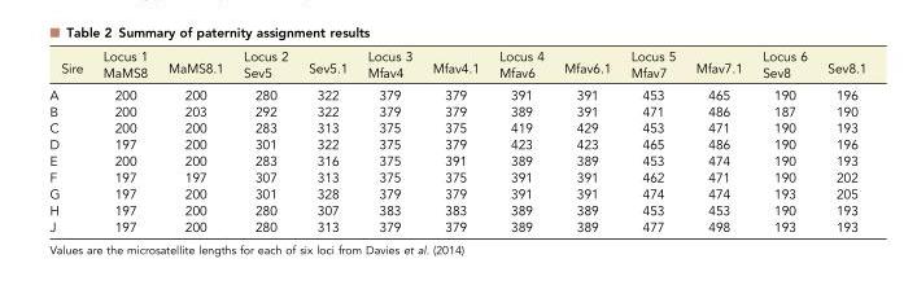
<table><thead><tr><td>Sire</td><td>Locus 1 MaMS8</td><td>MaMS8.1</td><td>Locus 2 Sev5</td><td>Sev5.1</td><td>Locus 3 Mfav4</td><td>Mfav4.1</td><td>Locus 4 Mfav6</td><td>Mfav6.1</td><td>Locus 5 Mfav7</td><td>Mfav7.1</td><td>Locus 6 Sev8</td><td>Sev8.1</td></tr></thead><tbody><tr><td>A</td><td>200</td><td>200</td><td>280</td><td>322</td><td>379</td><td>379</td><td>391</td><td>391</td><td>453</td><td>465</td><td>190</td><td>196</td></tr><tr><td>B</td><td>200</td><td>203</td><td>292</td><td>322</td><td>379</td><td>379</td><td>389</td><td>391</td><td>471</td><td>486</td><td>187</td><td>190</td></tr><tr><td>C</td><td>200</td><td>200</td><td>283</td><td>313</td><td>375</td><td>375</td><td>419</td><td>429</td><td>453</td><td>471</td><td>190</td><td>193</td></tr><tr><td>D</td><td>197</td><td>200</td><td>301</td><td>322</td><td>375</td><td>379</td><td>423</td><td>423</td><td>465</td><td>486</td><td>190</td><td>196</td></tr><tr><td>E</td><td>200</td><td>200</td><td>283</td><td>316</td><td>375</td><td>391</td><td>389</td><td>389</td><td>453</td><td>474</td><td>190</td><td>193</td></tr><tr><td>F</td><td>197</td><td>197</td><td>307</td><td>313</td><td>375</td><td>375</td><td>391</td><td>391</td><td>462</td><td>471</td><td>190</td><td>202</td></tr><tr><td>G</td><td>197</td><td>200</td><td>301</td><td>328</td><td>379</td><td>379</td><td>391</td><td>391</td><td>474</td><td>474</td><td>193</td><td>205</td></tr><tr><td>H</td><td>197</td><td>200</td><td>280</td><td>307</td><td>383</td><td>383</td><td>389</td><td>389</td><td>453</td><td>453</td><td>190</td><td>193</td></tr><tr><td>J</td><td>197</td><td>200</td><td>280</td><td>313</td><td>379</td><td>379</td><td>389</td><td>389</td><td>477</td><td>498</td><td>193</td><td>193</td></tr></tbody></table>